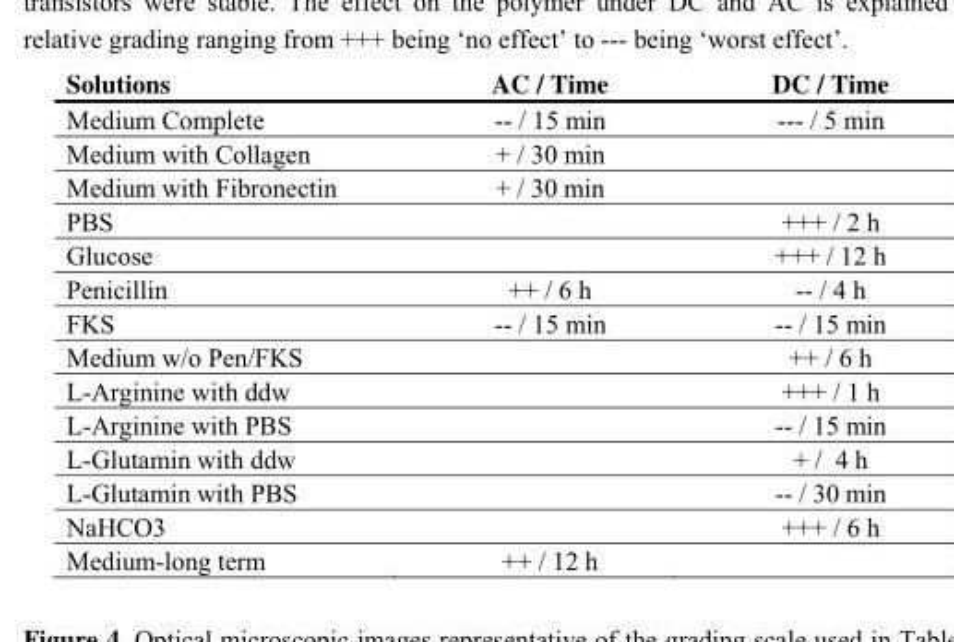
<table><thead><tr><td>Solutions</td><td>AC / Time</td><td>DC / Time</td></tr></thead><tbody><tr><td>Medium Complete</td><td>-- / 15 min</td><td>--- / 5 min</td></tr><tr><td>Medium with Collagen</td><td>+ / 30 min</td><td></td></tr><tr><td>Medium with Fibronectin</td><td>+ / 30 min</td><td></td></tr><tr><td>PBS</td><td></td><td>+++ / 2 h</td></tr><tr><td>Glucose</td><td></td><td>+++ / 12 h</td></tr><tr><td>Penicillin</td><td>++ / 6 h</td><td>-- / 4 h</td></tr><tr><td>FKS</td><td>-- / 15 min</td><td>-- / 15 min</td></tr><tr><td>Medium w/o Pen/FKS</td><td></td><td>++ / 6 h</td></tr><tr><td>L-Arginine with ddw</td><td></td><td>+++ / 1 h</td></tr><tr><td>L-Arginine with PBS</td><td></td><td>-- / 15 min</td></tr><tr><td>L-Glutamin with ddw</td><td></td><td>+ / 4 h</td></tr><tr><td>L-Glutamin with PBS</td><td></td><td>-- / 30 min</td></tr><tr><td>NaHCO3</td><td></td><td>+++ / 6 h</td></tr><tr><td>Medium-long term</td><td>++ / 12 h</td><td></td></tr></tbody></table>